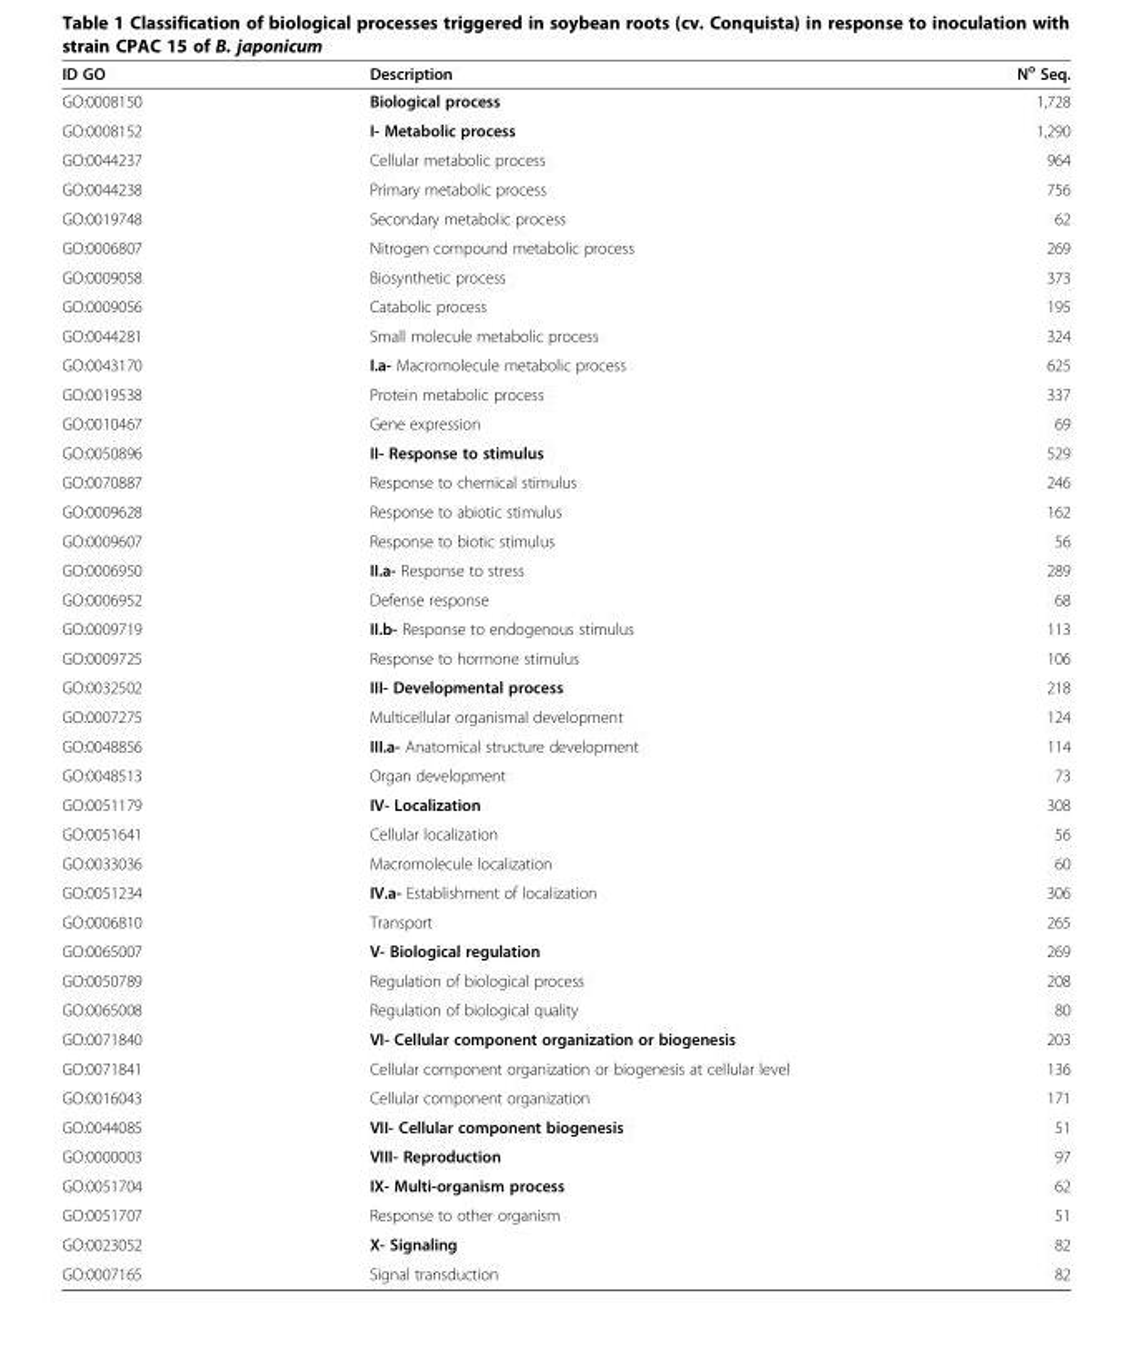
<table><thead><tr><td>ID GO</td><td>Description</td><td>N<sup>o</sup> Seq.</td></tr></thead><tbody><tr><td>GO:0008150</td><td>Biological process</td><td>1,728</td></tr><tr><td>GO:0008152</td><td>I- Metabolic process</td><td>1,290</td></tr><tr><td>GO:0044237</td><td>Cellular metabolic process</td><td>964</td></tr><tr><td>GO:0044238</td><td>Primary metabolic process</td><td>756</td></tr><tr><td>GO:0019748</td><td>Secondary metabolic process</td><td>62</td></tr><tr><td>GO:0006807</td><td>Nitrogen compound metabolic process</td><td>269</td></tr><tr><td>GO:0009058</td><td>Biosynthetic process</td><td>373</td></tr><tr><td>GO:0009056</td><td>Catabolic process</td><td>195</td></tr><tr><td>GO:0044281</td><td>Small molecule metabolic process</td><td>324</td></tr><tr><td>GO:0043170</td><td>I.a- Macromolecule metabolic process</td><td>625</td></tr><tr><td>GO:0019538</td><td>Protein metabolic process</td><td>337</td></tr><tr><td>GO:0010467</td><td>Gene expression</td><td>69</td></tr><tr><td>GO:0050896</td><td>II- Response to stimulus</td><td>529</td></tr><tr><td>GO:0070887</td><td>Response to chemical stimulus</td><td>246</td></tr><tr><td>GO:0009628</td><td>Response to abiotic stimulus</td><td>162</td></tr><tr><td>GO:0009607</td><td>Response to biotic stimulus</td><td>56</td></tr><tr><td>GO:0006950</td><td>II.a- Response to stress</td><td>289</td></tr><tr><td>GO:0006952</td><td>Defense response</td><td>68</td></tr><tr><td>GO:0009719</td><td>II.b- Response to endogenous stimulus</td><td>113</td></tr><tr><td>GO:0009725</td><td>Response to hormone stimulus</td><td>106</td></tr><tr><td>GO:0032502</td><td>III- Developmental process</td><td>218</td></tr><tr><td>GO:0007275</td><td>Multicellular organismal development</td><td>124</td></tr><tr><td>GO:0048856</td><td>III.a- Anatomical structure development</td><td>114</td></tr><tr><td>GO:0048513</td><td>Organ development</td><td>73</td></tr><tr><td>GO:0051179</td><td>IV- Localization</td><td>308</td></tr><tr><td>GO:0051641</td><td>Cellular localization</td><td>56</td></tr><tr><td>GO:0033036</td><td>Macromolecule localization</td><td>60</td></tr><tr><td>GO:0051234</td><td>IV.a- Establishment of localization</td><td>306</td></tr><tr><td>GO:0006810</td><td>Transport</td><td>265</td></tr><tr><td>GO:0065007</td><td>V- Biological regulation</td><td>269</td></tr><tr><td>GO:0050789</td><td>Regulation of biological process</td><td>208</td></tr><tr><td>GO:0065008</td><td>Regulation of biological quality</td><td>80</td></tr><tr><td>GO:0071840</td><td>VI- Cellular component organization or biogenesis</td><td>203</td></tr><tr><td>GO:0071841</td><td>Cellular component organization or biogenesis at cellular level</td><td>136</td></tr><tr><td>GO:0016043</td><td>Cellular component organization</td><td>171</td></tr><tr><td>GO:0044085</td><td>VII- Cellular component biogenesis</td><td>51</td></tr><tr><td>GO:0000003</td><td>VIII- Reproduction</td><td>97</td></tr><tr><td>GO:0051704</td><td>IX- Multi-organism process</td><td>62</td></tr><tr><td>GO:0051707</td><td>Response to other organism</td><td>51</td></tr><tr><td>GO:0023052</td><td>X- Signaling</td><td>82</td></tr><tr><td>GO:0007165</td><td>Signal transduction</td><td>82</td></tr></tbody></table>